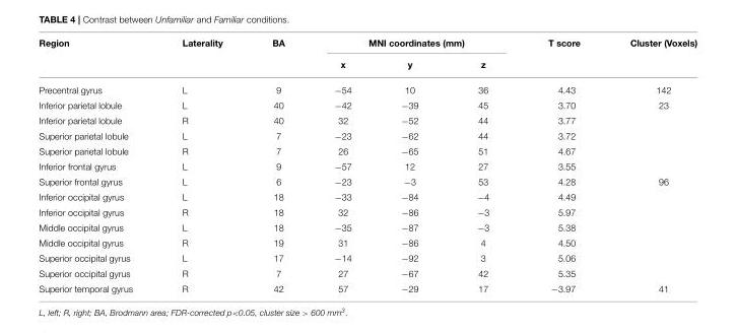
<table><thead><tr><td rowspan="2">Region</td><td rowspan="2">Laterality</td><td rowspan="2">BA</td><td colspan="3">MNI coordinates (mm)</td><td rowspan="2">T score</td><td rowspan="2">Cluster (Voxels)</td></tr><tr><td>x</td><td>y</td><td>z</td></tr></thead><tbody><tr><td>Precentral gyrus</td><td>L</td><td>9</td><td>−54</td><td>10</td><td>36</td><td>4.43</td><td>142</td></tr><tr><td>Inferior parietal lobule</td><td>L</td><td>40</td><td>−42</td><td>−39</td><td>45</td><td>3.70</td><td>23</td></tr><tr><td>Inferior parietal lobule</td><td>R</td><td>40</td><td>32</td><td>−52</td><td>44</td><td>3.77</td><td></td></tr><tr><td>Superior parietal lobule</td><td>L</td><td>7</td><td>−23</td><td>−62</td><td>44</td><td>3.72</td><td></td></tr><tr><td>Superior parietal lobule</td><td>R</td><td>7</td><td>26</td><td>−65</td><td>51</td><td>4.67</td><td></td></tr><tr><td>Inferior frontal gyrus</td><td>L</td><td>9</td><td>−57</td><td>12</td><td>27</td><td>3.55</td><td></td></tr><tr><td>Superior frontal gyrus</td><td>L</td><td>6</td><td>−23</td><td>−3</td><td>53</td><td>4.28</td><td>96</td></tr><tr><td>Inferior occipital gyrus</td><td>L</td><td>18</td><td>−33</td><td>−84</td><td>−4</td><td>4.49</td><td></td></tr><tr><td>Inferior occipital gyrus</td><td>R</td><td>18</td><td>32</td><td>−86</td><td>−3</td><td>5.97</td><td></td></tr><tr><td>Middle occipital gyrus</td><td>L</td><td>18</td><td>−35</td><td>−87</td><td>−3</td><td>5.38</td><td></td></tr><tr><td>Middle occipital gyrus</td><td>R</td><td>19</td><td>31</td><td>−86</td><td>4</td><td>4.50</td><td></td></tr><tr><td>Superior occipital gyrus</td><td>L</td><td>17</td><td>−14</td><td>−92</td><td>3</td><td>5.06</td><td></td></tr><tr><td>Superior occipital gyrus</td><td>R</td><td>7</td><td>27</td><td>−67</td><td>42</td><td>5.35</td><td></td></tr><tr><td>Superior temporal gyrus</td><td>R</td><td>42</td><td>57</td><td>−29</td><td>17</td><td>−3.97</td><td>41</td></tr></tbody></table>